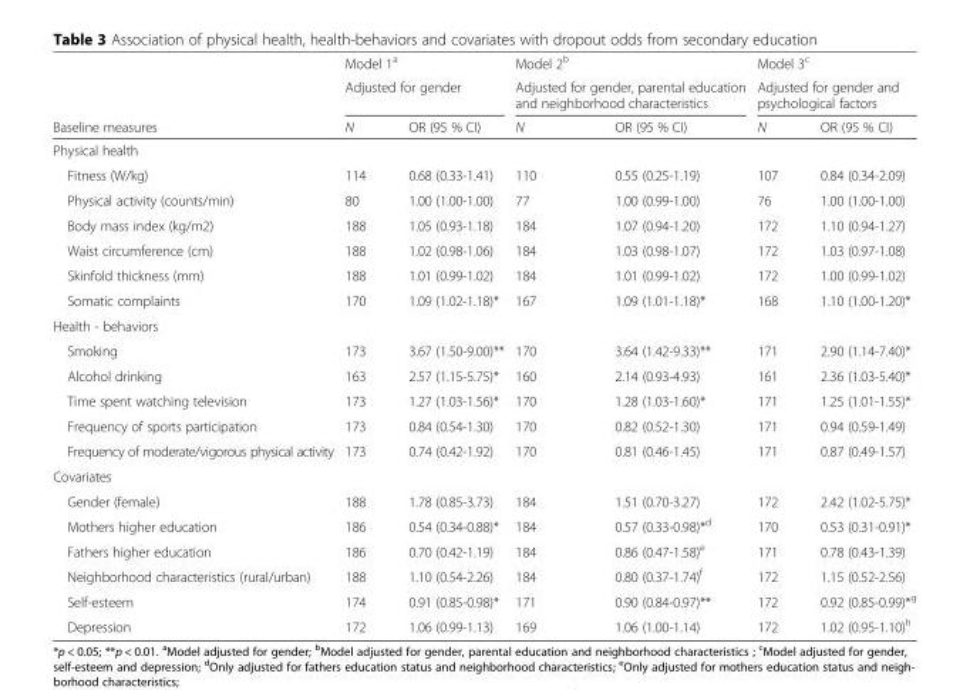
<table><thead><tr><td rowspan="3">Baseline measures</td><td>Model 1<sup>a</sup></td><td></td><td>Model 2<sup>b</sup></td><td></td><td>Model 3<sup>c</sup></td><td></td></tr><tr><td colspan="2">Adjusted for gender</td><td colspan="2">Adjusted for gender, parental education and neighborhood characteristics</td><td colspan="2">Adjusted for gender and psychological factors</td></tr><tr><td>N</td><td>OR (95 % CI)</td><td>N</td><td>OR (95 % CI)</td><td>N</td><td>OR (95 % CI)</td></tr></thead><tbody><tr><td colspan="7">Physical health</td></tr><tr><td>Fitness (W/kg)</td><td>114</td><td>0.68 (0.33-1.41)</td><td>110</td><td>0.55 (0.25-1.19)</td><td>107</td><td>0.84 (0.34-2.09)</td></tr><tr><td>Physical activity (counts/min)</td><td>80</td><td>1.00 (1.00-1.00)</td><td>77</td><td>1.00 (0.99-1.00)</td><td>76</td><td>1.00 (1.00-1.00)</td></tr><tr><td>Body mass index (kg/m2)</td><td>188</td><td>1.05 (0.93-1.18)</td><td>184</td><td>1.07 (0.94-1.20)</td><td>172</td><td>1.10 (0.94-1.27)</td></tr><tr><td>Waist circumference (cm)</td><td>188</td><td>1.02 (0.98-1.06)</td><td>184</td><td>1.03 (0.98-1.07)</td><td>172</td><td>1.03 (0.97-1.08)</td></tr><tr><td>Skinfold thickness (mm)</td><td>188</td><td>1.01 (0.99-1.02)</td><td>184</td><td>1.01 (0.99-1.02)</td><td>172</td><td>1.00 (0.99-1.02)</td></tr><tr><td>Somatic complaints</td><td>170</td><td>1.09 (1.02-1.18)*</td><td>167</td><td>1.09 (1.01-1.18)*</td><td>168</td><td>1.10 (1.00-1.20)*</td></tr><tr><td colspan="7">Health - behaviors</td></tr><tr><td>Smoking</td><td>173</td><td>3.67 (1.50-9.00)**</td><td>170</td><td>3.64 (1.42-9.33)**</td><td>171</td><td>2.90 (1.14-7.40)*</td></tr><tr><td>Alcohol drinking</td><td>163</td><td>2.57 (1.15-5.75)*</td><td>160</td><td>2.14 (0.93-4.93)</td><td>161</td><td>2.36 (1.03-5.40)*</td></tr><tr><td>Time spent watching television</td><td>173</td><td>1.27 (1.03-1.56)*</td><td>170</td><td>1.28 (1.03-1.60)*</td><td>171</td><td>1.25 (1.01-1.55)*</td></tr><tr><td>Frequency of sports participation</td><td>173</td><td>0.84 (0.54-1.30)</td><td>170</td><td>0.82 (0.52-1.30)</td><td>171</td><td>0.94 (0.59-1.49)</td></tr><tr><td>Frequency of moderate/vigorous physical activity</td><td>173</td><td>0.74 (0.42-1.92)</td><td>170</td><td>0.81 (0.46-1.45)</td><td>171</td><td>0.87 (0.49-1.57)</td></tr><tr><td colspan="7">Covariates</td></tr><tr><td>Gender (female)</td><td>188</td><td>1.78 (0.85-3.73)</td><td>184</td><td>1.51 (0.70-3.27)</td><td>172</td><td>2.42 (1.02-5.75)*</td></tr><tr><td>Mothers higher education</td><td>186</td><td>0.54 (0.34-0.88)*</td><td>184</td><td>0.57 (0.33-0.98)*<sup>d</sup></td><td>170</td><td>0.53 (0.31-0.91)*</td></tr><tr><td>Fathers higher education</td><td>186</td><td>0.70 (0.42-1.19)</td><td>184</td><td>0.86 (0.47-1.58)<sup>e</sup></td><td>171</td><td>0.78 (0.43-1.39)</td></tr><tr><td>Neighborhood characteristics (rural/urban)</td><td>188</td><td>1.10 (0.54-2.26)</td><td>184</td><td>0.80 (0.37-1.74)<sup>f</sup></td><td>172</td><td>1.15 (0.52-2.56)</td></tr><tr><td>Self-esteem</td><td>174</td><td>0.91 (0.85-0.98)*</td><td>171</td><td>0.90 (0.84-0.97)**</td><td>172</td><td>0.92 (0.85-0.99)*<sup>g</sup></td></tr><tr><td>Depression</td><td>172</td><td>1.06 (0.99-1.13)</td><td>169</td><td>1.06 (1.00-1.14)</td><td>172</td><td>1.02 (0.95-1.10)<sup>h</sup></td></tr></tbody></table>